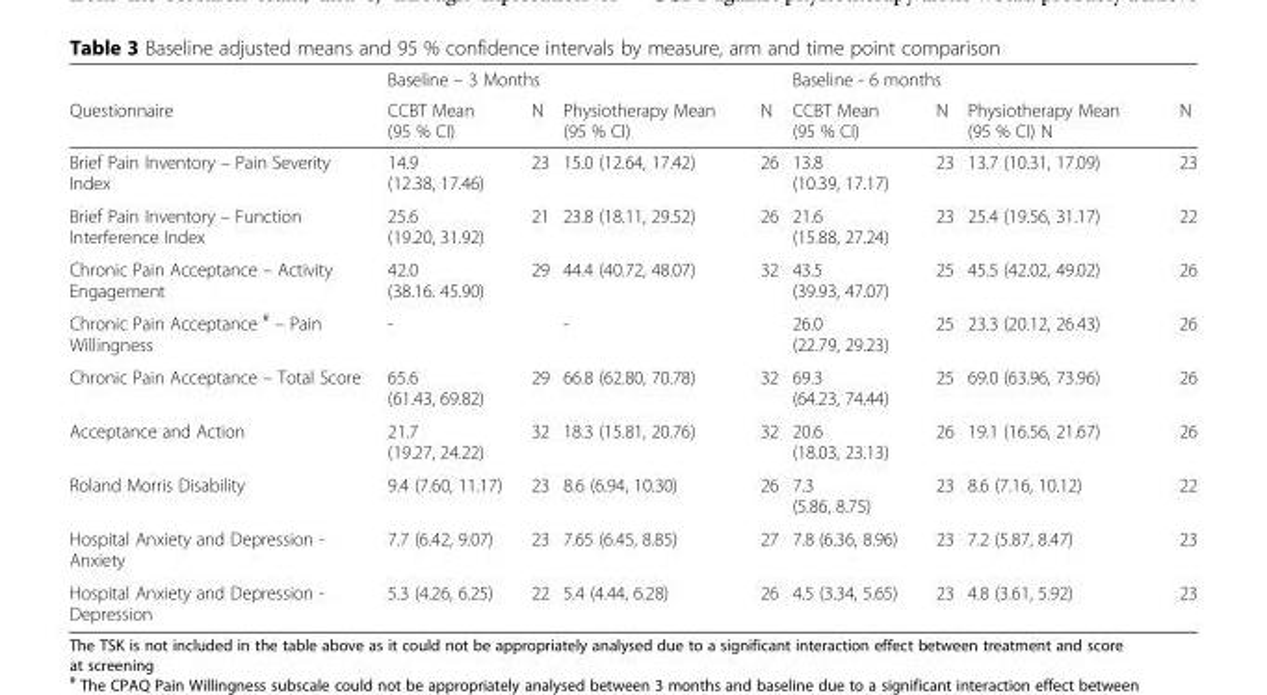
<table><thead><tr><td rowspan="2">Questionnaire</td><td colspan="4">Baseline – 3 Months</td><td colspan="4">Baseline - 6 months</td></tr><tr><td>CCBT Mean (95 % CI)</td><td>N</td><td>Physiotherapy Mean (95 % CI)</td><td>N</td><td>CCBT Mean (95 % CI)</td><td>N</td><td>Physiotherapy Mean (95 % CI) N</td><td>N</td></tr></thead><tbody><tr><td>Brief Pain Inventory – Pain Severity Index</td><td>14.9 (12.38, 17.46)</td><td>23</td><td>15.0 (12.64, 17.42)</td><td>26</td><td>13.8 (10.39, 17.17)</td><td>23</td><td>13.7 (10.31, 17.09)</td><td>23</td></tr><tr><td>Brief Pain Inventory – Function Interference Index</td><td>25.6 (19.20, 31.92)</td><td>21</td><td>23.8 (18.11, 29.52)</td><td>26</td><td>21.6 (15.88, 27.24)</td><td>23</td><td>25.4 (19.56, 31.17)</td><td>22</td></tr><tr><td>Chronic Pain Acceptance – Activity Engagement</td><td>42.0 (38.16. 45.90)</td><td>29</td><td>44.4 (40.72, 48.07)</td><td>32</td><td>43.5 (39.93, 47.07)</td><td>25</td><td>45.5 (42.02, 49.02)</td><td>26</td></tr><tr><td>Chronic Pain Acceptance <sup>#</sup> – Pain Willingness</td><td>-</td><td></td><td>-</td><td></td><td>26.0 (22.79, 29.23)</td><td>25</td><td>23.3 (20.12, 26.43)</td><td>26</td></tr><tr><td>Chronic Pain Acceptance – Total Score</td><td>65.6 (61.43, 69.82)</td><td>29</td><td>66.8 (62.80, 70.78)</td><td>32</td><td>69.3 (64.23, 74.44)</td><td>25</td><td>69.0 (63.96, 73.96)</td><td>26</td></tr><tr><td>Acceptance and Action</td><td>21.7 (19.27, 24.22)</td><td>32</td><td>18.3 (15.81, 20.76)</td><td>32</td><td>20.6 (18.03, 23.13)</td><td>26</td><td>19.1 (16.56, 21.67)</td><td>26</td></tr><tr><td>Roland Morris Disability</td><td>9.4 (7.60, 11.17)</td><td>23</td><td>8.6 (6.94, 10.30)</td><td>26</td><td>7.3 (5.86, 8.75)</td><td>23</td><td>8.6 (7.16, 10.12)</td><td>22</td></tr><tr><td>Hospital Anxiety and Depression - Anxiety</td><td>7.7 (6.42, 9.07)</td><td>23</td><td>7.65 (6.45, 8.85)</td><td>27</td><td>7.8 (6.36, 8.96)</td><td>23</td><td>7.2 (5.87, 8.47)</td><td>23</td></tr><tr><td>Hospital Anxiety and Depression - Depression</td><td>5.3 (4.26, 6.25)</td><td>22</td><td>5.4 (4.44, 6.28)</td><td>26</td><td>4.5 (3.34, 5.65)</td><td>23</td><td>4.8 (3.61, 5.92)</td><td>23</td></tr></tbody></table>